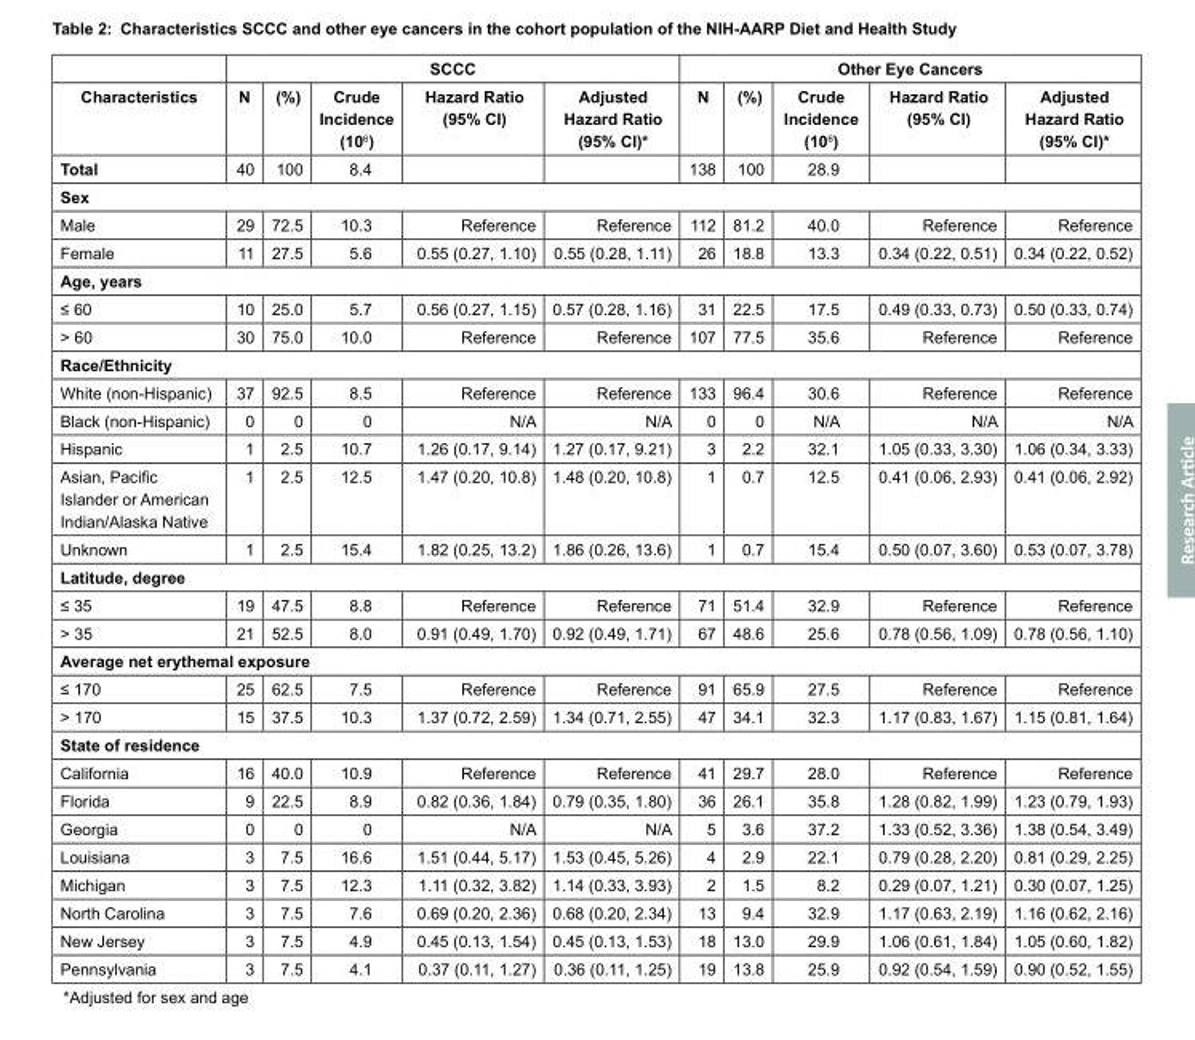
<table><thead><tr><td rowspan="2">Characteristics</td><td colspan="5">SCCC</td><td colspan="5">Other Eye Cancers</td></tr><tr><td>N</td><td>(%)</td><td>Crude Incidence (10<sup>6</sup>)</td><td>Hazard Ratio (95% CI)</td><td>Adjusted Hazard Ratio (95% CI)*</td><td>N</td><td>(%)</td><td>Crude Incidence (10<sup>6</sup>)</td><td>Hazard Ratio (95% CI)</td><td>Adjusted Hazard Ratio (95% CI)*</td></tr></thead><tbody><tr><td>Total</td><td>40</td><td>100</td><td>8.4</td><td></td><td></td><td>138</td><td>100</td><td>28.9</td><td></td><td></td></tr><tr><td colspan="11">Sex</td></tr><tr><td>Male</td><td>29</td><td>72.5</td><td>10.3</td><td>Reference</td><td>Reference</td><td>112</td><td>81.2</td><td>40.0</td><td>Reference</td><td>Reference</td></tr><tr><td>Female</td><td>11</td><td>27.5</td><td>5.6</td><td>0.55 (0.27, 1.10)</td><td>0.55 (0.28, 1.11)</td><td>26</td><td>18.8</td><td>13.3</td><td>0.34 (0.22, 0.51)</td><td>0.34 (0.22, 0.52)</td></tr><tr><td colspan="11">Age, years</td></tr><tr><td>≤ 60</td><td>10</td><td>25.0</td><td>5.7</td><td>0.56 (0.27, 1.15)</td><td>0.57 (0.28, 1.16)</td><td>31</td><td>22.5</td><td>17.5</td><td>0.49 (0.33, 0.73)</td><td>0.50 (0.33, 0.74)</td></tr><tr><td>&gt; 60</td><td>30</td><td>75.0</td><td>10.0</td><td>Reference</td><td>Reference</td><td>107</td><td>77.5</td><td>35.6</td><td>Reference</td><td>Reference</td></tr><tr><td colspan="11">Race/Ethnicity</td></tr><tr><td>White (non-Hispanic)</td><td>37</td><td>92.5</td><td>8.5</td><td>Reference</td><td>Reference</td><td>133</td><td>96.4</td><td>30.6</td><td>Reference</td><td>Reference</td></tr><tr><td>Black (non-Hispanic)</td><td>0</td><td>0</td><td>0</td><td>N/A</td><td>N/A</td><td>0</td><td>0</td><td>N/A</td><td>N/A</td><td>N/A</td></tr><tr><td>Hispanic</td><td>1</td><td>2.5</td><td>10.7</td><td>1.26 (0.17, 9.14)</td><td>1.27 (0.17, 9.21)</td><td>3</td><td>2.2</td><td>32.1</td><td>1.05 (0.33, 3.30)</td><td>1.06 (0.34, 3.33)</td></tr><tr><td>Asian, Pacific Islander or American Indian/Alaska Native</td><td>1</td><td>2.5</td><td>12.5</td><td>1.47 (0.20, 10.8)</td><td>1.48 (0.20, 10.8)</td><td>1</td><td>0.7</td><td>12.5</td><td>0.41 (0.06, 2.93)</td><td>0.41 (0.06, 2.92)</td></tr><tr><td>Unknown</td><td>1</td><td>2.5</td><td>15.4</td><td>1.82 (0.25, 13.2)</td><td>1.86 (0.26, 13.6)</td><td>1</td><td>0.7</td><td>15.4</td><td>0.50 (0.07, 3.60)</td><td>0.53 (0.07, 3.78)</td></tr><tr><td colspan="11">Latitude, degree</td></tr><tr><td>≤ 35</td><td>19</td><td>47.5</td><td>8.8</td><td>Reference</td><td>Reference</td><td>71</td><td>51.4</td><td>32.9</td><td>Reference</td><td>Reference</td></tr><tr><td>&gt; 35</td><td>21</td><td>52.5</td><td>8.0</td><td>0.91 (0.49, 1.70)</td><td>0.92 (0.49, 1.71)</td><td>67</td><td>48.6</td><td>25.6</td><td>0.78 (0.56, 1.09)</td><td>0.78 (0.56, 1.10)</td></tr><tr><td colspan="11">Average net erythemal exposure</td></tr><tr><td>≤ 170</td><td>25</td><td>62.5</td><td>7.5</td><td>Reference</td><td>Reference</td><td>91</td><td>65.9</td><td>27.5</td><td>Reference</td><td>Reference</td></tr><tr><td>&gt; 170</td><td>15</td><td>37.5</td><td>10.3</td><td>1.37 (0.72, 2.59)</td><td>1.34 (0.71, 2.55)</td><td>47</td><td>34.1</td><td>32.3</td><td>1.17 (0.83, 1.67)</td><td>1.15 (0.81, 1.64)</td></tr><tr><td colspan="11">State of residence</td></tr><tr><td>California</td><td>16</td><td>40.0</td><td>10.9</td><td>Reference</td><td>Reference</td><td>41</td><td>29.7</td><td>28.0</td><td>Reference</td><td>Reference</td></tr><tr><td>Florida</td><td>9</td><td>22.5</td><td>8.9</td><td>0.82 (0.36, 1.84)</td><td>0.79 (0.35, 1.80)</td><td>36</td><td>26.1</td><td>35.8</td><td>1.28 (0.82, 1.99)</td><td>1.23 (0.79, 1.93)</td></tr><tr><td>Georgia</td><td>0</td><td>0</td><td>0</td><td>N/A</td><td>N/A</td><td>5</td><td>3.6</td><td>37.2</td><td>1.33 (0.52, 3.36)</td><td>1.38 (0.54, 3.49)</td></tr><tr><td>Louisiana</td><td>3</td><td>7.5</td><td>16.6</td><td>1.51 (0.44, 5.17)</td><td>1.53 (0.45, 5.26)</td><td>4</td><td>2.9</td><td>22.1</td><td>0.79 (0.28, 2.20)</td><td>0.81 (0.29, 2.25)</td></tr><tr><td>Michigan</td><td>3</td><td>7.5</td><td>12.3</td><td>1.11 (0.32, 3.82)</td><td>1.14 (0.33, 3.93)</td><td>2</td><td>1.5</td><td>8.2</td><td>0.29 (0.07, 1.21)</td><td>0.30 (0.07, 1.25)</td></tr><tr><td>North Carolina</td><td>3</td><td>7.5</td><td>7.6</td><td>0.69 (0.20, 2.36)</td><td>0.68 (0.20, 2.34)</td><td>13</td><td>9.4</td><td>32.9</td><td>1.17 (0.63, 2.19)</td><td>1.16 (0.62, 2.16)</td></tr><tr><td>New Jersey</td><td>3</td><td>7.5</td><td>4.9</td><td>0.45 (0.13, 1.54)</td><td>0.45 (0.13, 1.53)</td><td>18</td><td>13.0</td><td>29.9</td><td>1.06 (0.61, 1.84)</td><td>1.05 (0.60, 1.82)</td></tr><tr><td>Pennsylvania</td><td>3</td><td>7.5</td><td>4.1</td><td>0.37 (0.11, 1.27)</td><td>0.36 (0.11, 1.25)</td><td>19</td><td>13.8</td><td>25.9</td><td>0.92 (0.54, 1.59)</td><td>0.90 (0.52, 1.55)</td></tr></tbody></table>